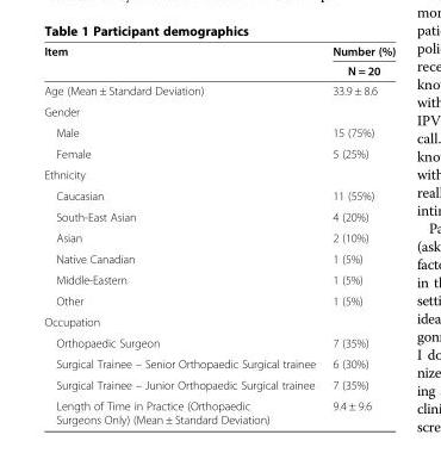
<table><thead><tr><td rowspan="2">Item</td><td rowspan="2">Number (%) N = 20</td></tr><tr></tr></thead><tbody><tr><td>Age (Mean ± Standard Deviation)</td><td>33.9 ± 8.6</td></tr><tr><td colspan="2">Gender</td></tr><tr><td>Male</td><td>15 (75%)</td></tr><tr><td>Female</td><td>5 (25%)</td></tr><tr><td colspan="2">Ethnicity</td></tr><tr><td>Caucasian</td><td>11 (55%)</td></tr><tr><td>South-East Asian</td><td>4 (20%)</td></tr><tr><td>Asian</td><td>2 (10%)</td></tr><tr><td>Native Canadian</td><td>1 (5%)</td></tr><tr><td>Middle-Eastern</td><td>1 (5%)</td></tr><tr><td>Other</td><td>1 (5%)</td></tr><tr><td colspan="2">Occupation</td></tr><tr><td>Orthopaedic Surgeon</td><td>7 (35%)</td></tr><tr><td>Surgical Trainee – Senior Orthopaedic Surgical trainee</td><td>6 (30%)</td></tr><tr><td>Surgical Trainee – Junior Orthopaedic Surgical trainee</td><td>7 (35%)</td></tr><tr><td>Length of Time in Practice (Orthopaedic Surgeons Only) (Mean ± Standard Deviation)</td><td>9.4 ± 9.6</td></tr></tbody></table>